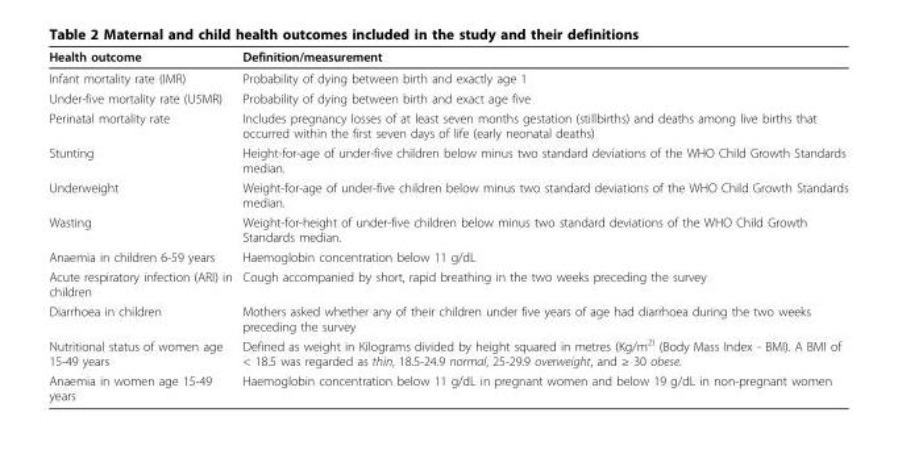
<table><thead><tr><td>Health outcome</td><td>Definition/measurement</td></tr></thead><tbody><tr><td>Infant mortality rate (IMR)</td><td>Probability of dying between birth and exactly age 1</td></tr><tr><td>Under-five mortality rate (U5MR)</td><td>Probability of dying between birth and exact age five</td></tr><tr><td>Perinatal mortality rate</td><td>Includes pregnancy losses of at least seven months gestation (stillbirths) and deaths among live births that occurred within the first seven days of life (early neonatal deaths)</td></tr><tr><td>Stunting</td><td>Height-for-age of under-five children below minus two standard deviations of the WHO Child Growth Standards median.</td></tr><tr><td>Underweight</td><td>Weight-for-age of under-five children below minus two standard deviations of the WHO Child Growth Standards median.</td></tr><tr><td>Wasting</td><td>Weight-for-height of under-five children below minus two standard deviations of the WHO Child Growth Standards median.</td></tr><tr><td>Anaemia in children 6-59 years</td><td>Haemoglobin concentration below 11 g/dL</td></tr><tr><td>Acute respiratory infection (ARI) in children</td><td>Cough accompanied by short, rapid breathing in the two weeks preceding the survey</td></tr><tr><td>Diarrhoea in children</td><td>Mothers asked whether any of their children under five years of age had diarrhoea during the two weeks preceding the survey</td></tr><tr><td>Nutritional status of women age 15-49 years</td><td>Defined as weight in Kilograms divided by height squared in metres (Kg/m<sup>2)</sup> (Body Mass Index - BMI). A BMI of &lt; 18.5 was regarded as thin, 18.5-24.9 normal, 25-29.9 overweight, and ≥ 30 obese.</td></tr><tr><td>Anaemia in women age 15-49 years</td><td>Haemoglobin concentration below 11 g/dL in pregnant women and below 19 g/dL in non-pregnant women</td></tr></tbody></table>